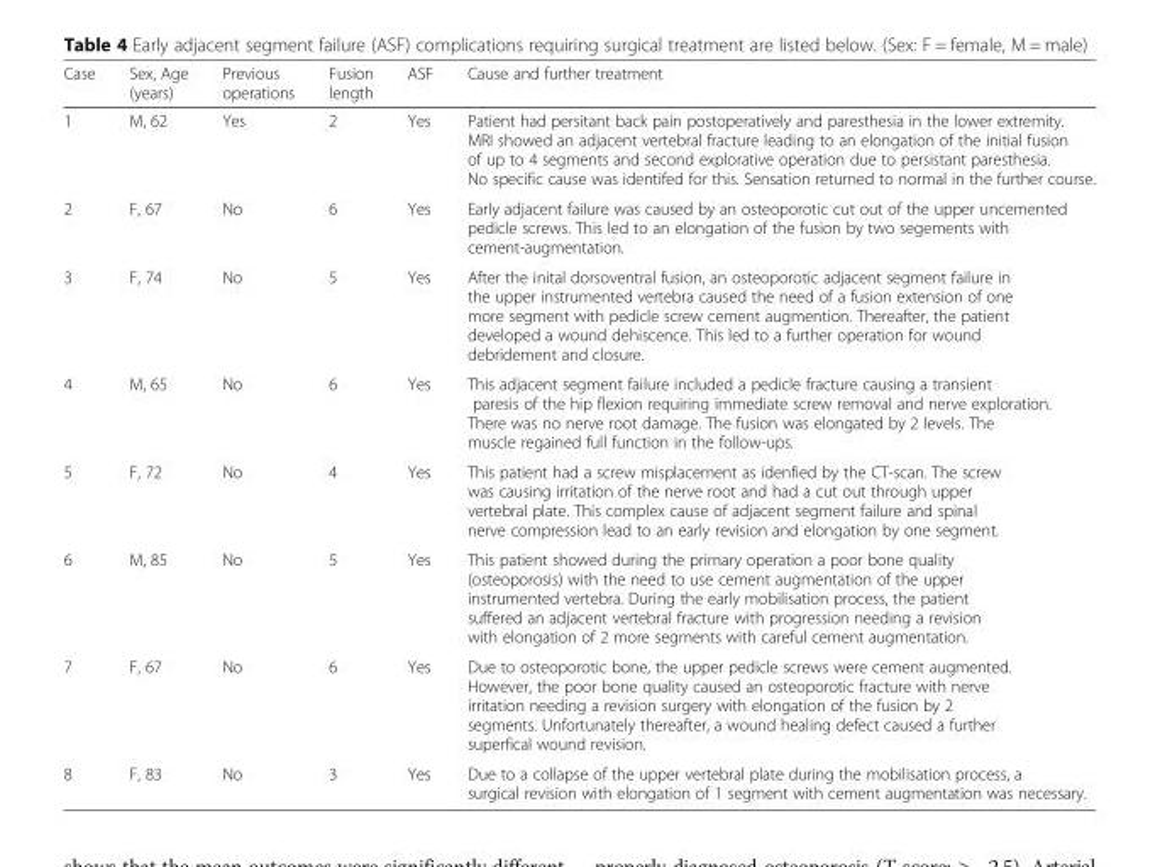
<table><thead><tr><td>Case</td><td>Sex, Age (years)</td><td>Previous operations</td><td>Fusion length</td><td>ASF</td><td>Cause and further treatment</td></tr></thead><tbody><tr><td>1</td><td>M, 62</td><td>Yes</td><td>2</td><td>Yes</td><td>Patient had persitant back pain postoperatively and paresthesia in the lower extremity. MRI showed an adjacent vertebral fracture leading to an elongation of the initial fusion of up to 4 segments and second explorative operation due to persistant paresthesia. No specific cause was identifed for this. Sensation returned to normal in the further course.</td></tr><tr><td>2</td><td>F, 67</td><td>No</td><td>6</td><td>Yes</td><td>Early adjacent failure was caused by an osteoporotic cut out of the upper uncemented pedicle screws. This led to an elongation of the fusion by two segements with cement-augmentation.</td></tr><tr><td>3</td><td>F, 74</td><td>No</td><td>5</td><td>Yes</td><td>After the inital dorsoventral fusion, an osteoporotic adjacent segment failure in the upper instrumented vertebra caused the need of a fusion extension of one more segment with pedicle screw cement augmention. Thereafter, the patient developed a wound dehiscence. This led to a further operation for wound debridement and closure.</td></tr><tr><td>4</td><td>M, 65</td><td>No</td><td>6</td><td>Yes</td><td>This adjacent segment failure included a pedicle fracture causing a transient paresis of the hip flexion requiring immediate screw removal and nerve exploration. There was no nerve root damage. The fusion was elongated by 2 levels. The muscle regained full function in the follow-ups.</td></tr><tr><td>5</td><td>F, 72</td><td>No</td><td>4</td><td>Yes</td><td>This patient had a screw misplacement as idenfied by the CT-scan. The screw was causing irritation of the nerve root and had a cut out through upper vertebral plate. This complex cause of adjacent segment failure and spinal nerve compression lead to an early revision and elongation by one segment.</td></tr><tr><td>6</td><td>M, 85</td><td>No</td><td>5</td><td>Yes</td><td>This patient showed during the primary operation a poor bone quality (osteoporosis) with the need to use cement augmentation of the upper instrumented vertebra. During the early mobilisation process, the patient suffered an adjacent vertebral fracture with progression needing a revision with elongation of 2 more segments with careful cement augmentation.</td></tr><tr><td>7</td><td>F, 67</td><td>No</td><td>6</td><td>Yes</td><td>Due to osteoporotic bone, the upper pedicle screws were cement augmented. However, the poor bone quality caused an osteoporotic fracture with nerve irritation needing a revision surgery with elongation of the fusion by 2 segments. Unfortunately thereafter, a wound healing defect caused a further superfical wound revision.</td></tr><tr><td>8</td><td>F, 83</td><td>No</td><td>3</td><td>Yes</td><td>Due to a collapse of the upper vertebral plate during the mobilisation process, a surgical revision with elongation of 1 segment with cement augmentation was necessary.</td></tr></tbody></table>